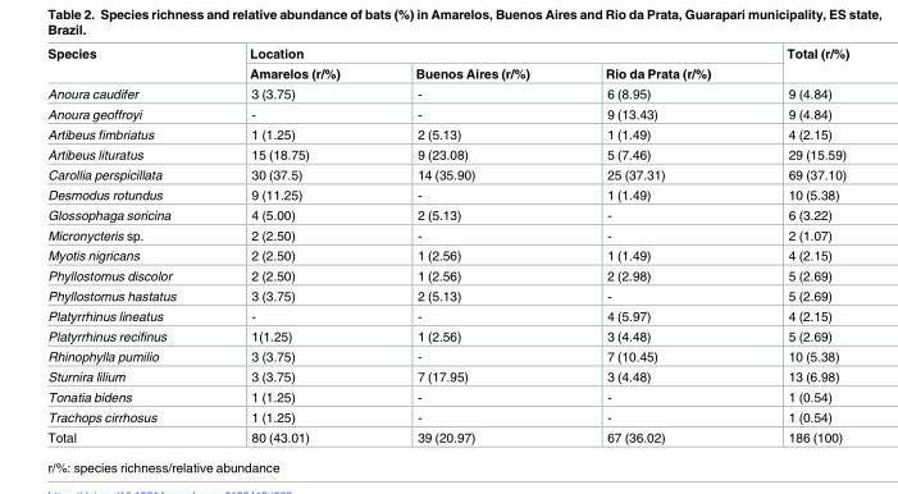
<table><thead><tr><td rowspan="2">Species</td><td colspan="3">Location</td><td rowspan="2">Total (r/%)</td></tr><tr><td>Amarelos (r/%)</td><td>Buenos Aires (r/%)</td><td>Rio da Prata (r/%)</td></tr></thead><tbody><tr><td>Anoura caudifer</td><td>3 (3.75)</td><td>-</td><td>6 (8.95)</td><td>9 (4.84)</td></tr><tr><td>Anoura geoffroyi</td><td>-</td><td>-</td><td>9 (13.43)</td><td>9 (4.84)</td></tr><tr><td>Artibeus fimbriatus</td><td>1 (1.25)</td><td>2 (5.13)</td><td>1 (1.49)</td><td>4 (2.15)</td></tr><tr><td>Artibeus lituratus</td><td>15 (18.75)</td><td>9 (23.08)</td><td>5 (7.46)</td><td>29 (15.59)</td></tr><tr><td>Carollia perspicillata</td><td>30 (37.5)</td><td>14 (35.90)</td><td>25 (37.31)</td><td>69 (37.10)</td></tr><tr><td>Desmodus rotundus</td><td>9 (11.25)</td><td>-</td><td>1 (1.49)</td><td>10 (5.38)</td></tr><tr><td>Glossophaga soricina</td><td>4 (5.00)</td><td>2 (5.13)</td><td>-</td><td>6 (3.22)</td></tr><tr><td>Micronycteris sp.</td><td>2 (2.50)</td><td>-</td><td>-</td><td>2 (1.07)</td></tr><tr><td>Myotis nigricans</td><td>2 (2.50)</td><td>1 (2.56)</td><td>1 (1.49)</td><td>4 (2.15)</td></tr><tr><td>Phyllostomus discolor</td><td>2 (2.50)</td><td>1 (2.56)</td><td>2 (2.98)</td><td>5 (2.69)</td></tr><tr><td>Phyllostomus hastatus</td><td>3 (3.75)</td><td>2 (5.13)</td><td>-</td><td>5 (2.69)</td></tr><tr><td>Platyrrhinus lineatus</td><td>-</td><td>-</td><td>4 (5.97)</td><td>4 (2.15)</td></tr><tr><td>Platyrrhinus recifinus</td><td>1(1.25)</td><td>1 (2.56)</td><td>3 (4.48)</td><td>5 (2.69)</td></tr><tr><td>Rhinophylla pumilio</td><td>3 (3.75)</td><td>-</td><td>7 (10.45)</td><td>10 (5.38)</td></tr><tr><td>Sturnira lilium</td><td>3 (3.75)</td><td>7 (17.95)</td><td>3 (4.48)</td><td>13 (6.98)</td></tr><tr><td>Tonatia bidens</td><td>1 (1.25)</td><td>-</td><td>-</td><td>1 (0.54)</td></tr><tr><td>Trachops cirrhosus</td><td>1 (1.25)</td><td>-</td><td>-</td><td>1 (0.54)</td></tr><tr><td>Total</td><td>80 (43.01)</td><td>39 (20.97)</td><td>67 (36.02)</td><td>186 (100)</td></tr></tbody></table>